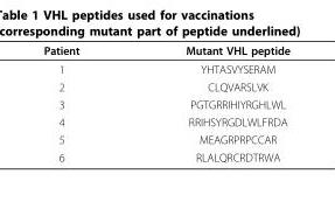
<table><thead><tr><td>Patient</td><td>Mutant VHL peptide</td></tr></thead><tbody><tr><td>1</td><td>YHTASVYSERAM</td></tr><tr><td>2</td><td>CLQVARSLVK</td></tr><tr><td>3</td><td>PGTGRRIHIYRGHLWL</td></tr><tr><td>4</td><td>RRIHSYRGDLWLFRDA</td></tr><tr><td>5</td><td>MEAGRPRPCCAR</td></tr><tr><td>6</td><td>RLALQRCRDTRWA</td></tr></tbody></table>